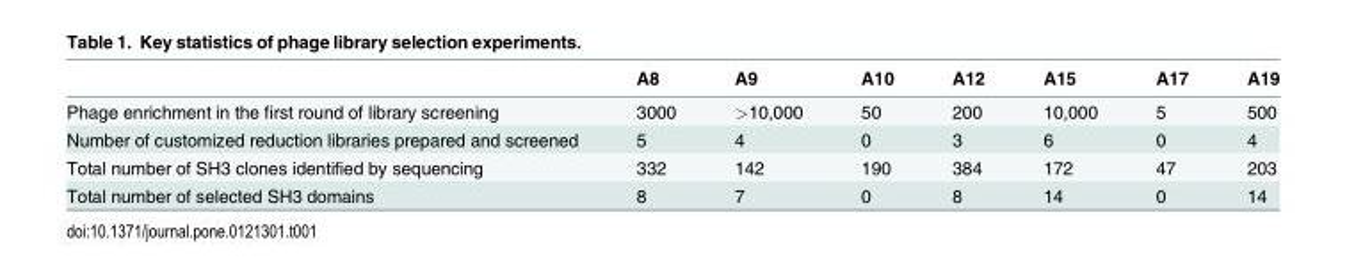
<table><thead><tr><td></td><td>A8</td><td>A9</td><td>A10</td><td>A12</td><td>A15</td><td>A17</td><td>A19</td></tr></thead><tbody><tr><td>Phage enrichment in the first round of library screening</td><td>3000</td><td>&gt;10,000</td><td>50</td><td>200</td><td>10,000</td><td>5</td><td>500</td></tr><tr><td>Number of customized reduction libraries prepared and screened</td><td>5</td><td>4</td><td>0</td><td>3</td><td>6</td><td>0</td><td>4</td></tr><tr><td>Total number of SH3 clones identified by sequencing</td><td>332</td><td>142</td><td>190</td><td>384</td><td>172</td><td>47</td><td>203</td></tr><tr><td>Total number of selected SH3 domains</td><td>8</td><td>7</td><td>0</td><td>8</td><td>14</td><td>0</td><td>14</td></tr></tbody></table>